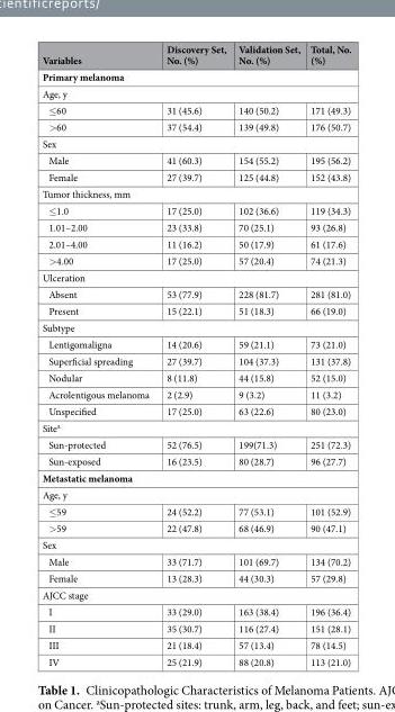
<table><thead><tr><td>Variables</td><td>Discovery Set, No. (%)</td><td>Validation Set, No. (%)</td><td>Total, No. (%)</td></tr></thead><tbody><tr><td colspan="4">Primary melanoma</td></tr><tr><td colspan="4">Age, y</td></tr><tr><td>≤60</td><td>31 (45.6)</td><td>140 (50.2)</td><td>171 (49.3)</td></tr><tr><td>&gt;60</td><td>37 (54.4)</td><td>139 (49.8)</td><td>176 (50.7)</td></tr><tr><td colspan="4">Sex</td></tr><tr><td>Male</td><td>41 (60.3)</td><td>154 (55.2)</td><td>195 (56.2)</td></tr><tr><td>Female</td><td>27 (39.7)</td><td>125 (44.8)</td><td>152 (43.8)</td></tr><tr><td colspan="4">Tumor thickness, mm</td></tr><tr><td>≤1.0</td><td>17 (25.0)</td><td>102 (36.6)</td><td>119 (34.3)</td></tr><tr><td>1.01–2.00</td><td>23 (33.8)</td><td>70 (25.1)</td><td>93 (26.8)</td></tr><tr><td>2.01–4.00</td><td>11 (16.2)</td><td>50 (17.9)</td><td>61 (17.6)</td></tr><tr><td>&gt;4.00</td><td>17 (25.0)</td><td>57 (20.4)</td><td>74 (21.3)</td></tr><tr><td colspan="4">Ulceration</td></tr><tr><td>Absent</td><td>53 (77.9)</td><td>228 (81.7)</td><td>281 (81.0)</td></tr><tr><td>Present</td><td>15 (22.1)</td><td>51 (18.3)</td><td>66 (19.0)</td></tr><tr><td colspan="4">Subtype</td></tr><tr><td>Lentigomaligna</td><td>14 (20.6)</td><td>59 (21.1)</td><td>73 (21.0)</td></tr><tr><td>Superficial spreading</td><td>27 (39.7)</td><td>104 (37.3)</td><td>131 (37.8)</td></tr><tr><td>Nodular</td><td>8 (11.8)</td><td>44 (15.8)</td><td>52 (15.0)</td></tr><tr><td>Acrolentigous melanoma</td><td>2 (2.9)</td><td>9 (3.2)</td><td>11 (3.2)</td></tr><tr><td>Unspecified</td><td>17 (25.0)</td><td>63 (22.6)</td><td>80 (23.0)</td></tr><tr><td colspan="4">Site<sup>a</sup></td></tr><tr><td>Sun-protected</td><td>52 (76.5)</td><td>199(71.3)</td><td>251 (72.3)</td></tr><tr><td>Sun-exposed</td><td>16 (23.5)</td><td>80 (28.7)</td><td>96 (27.7)</td></tr><tr><td colspan="4">Metastatic melanoma</td></tr><tr><td colspan="4">Age, y</td></tr><tr><td>≤59</td><td>24 (52.2)</td><td>77 (53.1)</td><td>101 (52.9)</td></tr><tr><td>&gt;59</td><td>22 (47.8)</td><td>68 (46.9)</td><td>90 (47.1)</td></tr><tr><td colspan="4">Sex</td></tr><tr><td>Male</td><td>33 (71.7)</td><td>101 (69.7)</td><td>134 (70.2)</td></tr><tr><td>Female</td><td>13 (28.3)</td><td>44 (30.3)</td><td>57 (29.8)</td></tr><tr><td colspan="4">AJCC stage</td></tr><tr><td>I</td><td>33 (29.0)</td><td>163 (38.4)</td><td>196 (36.4)</td></tr><tr><td>II</td><td>35 (30.7)</td><td>116 (27.4)</td><td>151 (28.1)</td></tr><tr><td>III</td><td>21 (18.4)</td><td>57 (13.4)</td><td>78 (14.5)</td></tr><tr><td>IV</td><td>25 (21.9)</td><td>88 (20.8)</td><td>113 (21.0)</td></tr></tbody></table>